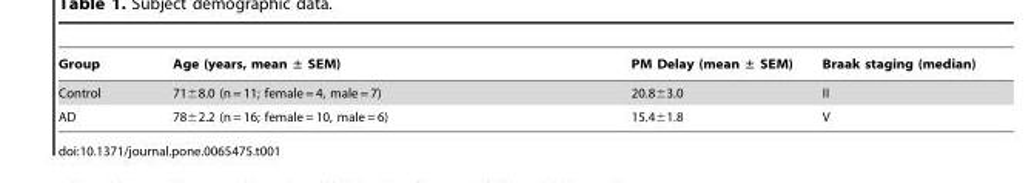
<table><thead><tr><td>Group</td><td>Age (years, mean ± SEM)</td><td>PM Delay (mean ± SEM)</td><td>Braak staging (median)</td></tr></thead><tbody><tr><td>Control</td><td>71±8.0 (n = 11; female = 4, male = 7)</td><td>20.8±3.0</td><td>II</td></tr><tr><td>AD</td><td>78±2.2 (n = 16; female = 10, male = 6)</td><td>15.4±1.8</td><td>V</td></tr></tbody></table>